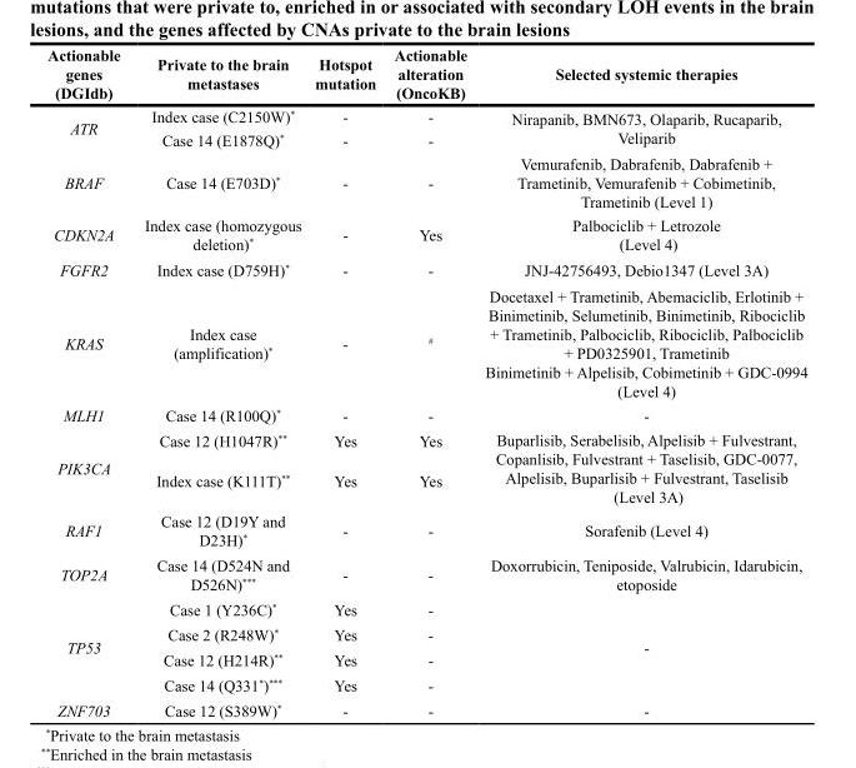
<table><thead><tr><td>Actionable genes (DGIdb)</td><td>Private to the brain metastases</td><td>Hotspot mutation</td><td>Actionable alteration (OncoKB)</td><td>Selected systemic therapies</td></tr></thead><tbody><tr><td rowspan="2">ATR</td><td>Index case (C2150W)*</td><td>-</td><td>-</td><td rowspan="2">Nirapanib, BMN673, Olaparib, Rucaparib, Veliparib</td></tr><tr><td>Case 14 (E1878Q)*</td><td>-</td><td>-</td></tr><tr><td>BRAF</td><td>Case 14 (E703D)*</td><td>-</td><td>-</td><td>Vemurafenib, Dabrafenib, Dabrafenib + Trametinib, Vemurafenib + Cobimetinib, Trametinib (Level 1)</td></tr><tr><td>CDKN2A</td><td>Index case (homozygous deletion)*</td><td>-</td><td>Yes</td><td>Palbociclib + Letrozole (Level 4)</td></tr><tr><td>FGFR2</td><td>Index case (D759H)*</td><td>-</td><td>-</td><td>JNJ-42756493, Debio1347 (Level 3A)</td></tr><tr><td>KRAS</td><td>Index case (amplification)*</td><td>-</td><td><sup>#</sup></td><td>Docetaxel + Trametinib, Abemaciclib, Erlotinib + Binimetinib, Selumetinib, Binimetinib, Ribociclib + Trametinib, Palbociclib, Ribociclib, Palbociclib + PD0325901, Trametinib Binimetinib + Alpelisib, Cobimetinib + GDC-0994 (Level 4)</td></tr><tr><td>MLH1</td><td>Case 14 (R100Q)*</td><td>-</td><td>-</td><td>-</td></tr><tr><td rowspan="2">PIK3CA</td><td>Case 12 (H1047R)**</td><td>Yes</td><td>Yes</td><td rowspan="2">Buparlisib, Serabelisib, Alpelisib + Fulvestrant, Copanlisib, Fulvestrant + Taselisib, GDC-0077, Alpelisib, Buparlisib + Fulvestrant, Taselisib (Level 3A)</td></tr><tr><td>Index case (K111T)**</td><td>Yes</td><td>Yes</td></tr><tr><td>RAF1</td><td>Case 12 (D19Y and D23H)*</td><td>-</td><td>-</td><td>Sorafenib (Level 4)</td></tr><tr><td>TOP2A</td><td>Case 14 (D524N and D526N)***</td><td>-</td><td>-</td><td>Doxorrubicin, Teniposide, Valrubicin, Idarubicin, etoposide</td></tr><tr><td rowspan="4">TP53</td><td>Case 1 (Y236C)*</td><td>Yes</td><td>-</td><td rowspan="4">-</td></tr><tr><td>Case 2 (R248W)*</td><td>Yes</td><td>-</td></tr><tr><td>Case 12 (H214R)**</td><td>Yes</td><td>-</td></tr><tr><td>Case 14 (Q331*)***</td><td>Yes</td><td>-</td></tr><tr><td>ZNF703</td><td>Case 12 (S389W)*</td><td>-</td><td>-</td><td>-</td></tr></tbody></table>